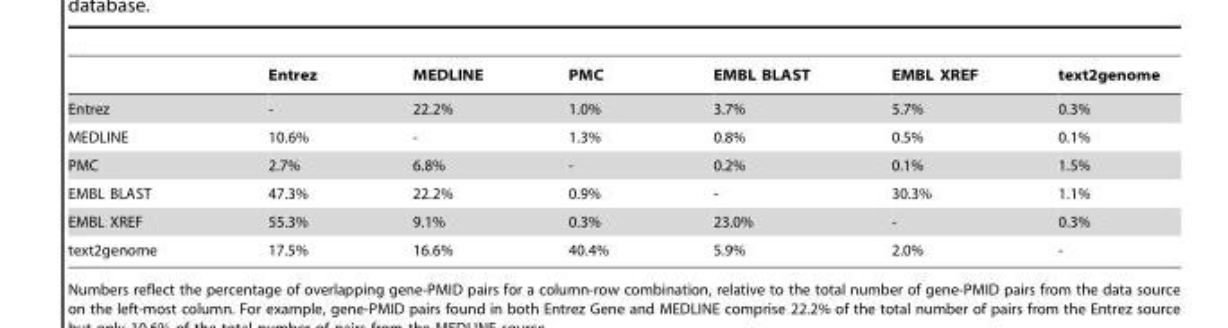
<table><thead><tr><td></td><td>Entrez</td><td>MEDLINE</td><td>PMC</td><td>EMBL BLAST</td><td>EMBL XREF</td><td>text2genome</td></tr></thead><tbody><tr><td>Entrez</td><td>-</td><td>22.2%</td><td>1.0%</td><td>3.7%</td><td>5.7%</td><td>0.3%</td></tr><tr><td>MEDLINE</td><td>10.6%</td><td>-</td><td>1.3%</td><td>0.8%</td><td>0.5%</td><td>0.1%</td></tr><tr><td>PMC</td><td>2.7%</td><td>6.8%</td><td>-</td><td>0.2%</td><td>0.1%</td><td>1.5%</td></tr><tr><td>EMBL BLAST</td><td>47.3%</td><td>22.2%</td><td>0.9%</td><td>-</td><td>30.3%</td><td>1.1%</td></tr><tr><td>EMBL XREF</td><td>55.3%</td><td>9.1%</td><td>0.3%</td><td>23.0%</td><td>-</td><td>0.3%</td></tr><tr><td>text2genome</td><td>17.5%</td><td>16.6%</td><td>40.4%</td><td>5.9%</td><td>2.0%</td><td>-</td></tr></tbody></table>